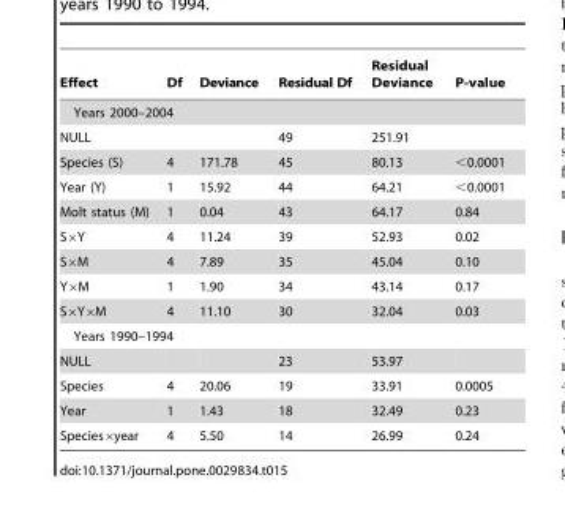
<table><thead><tr><td>Effect</td><td>Df</td><td>Deviance</td><td>Residual Df</td><td>Residual Deviance</td><td>P-value</td></tr></thead><tbody><tr><td colspan="6">Years 2000–2004</td></tr><tr><td>NULL</td><td></td><td></td><td>49</td><td>251.91</td><td></td></tr><tr><td>Species (S)</td><td>4</td><td>171.78</td><td>45</td><td>80.13</td><td>&lt;0.0001</td></tr><tr><td>Year (Y)</td><td>1</td><td>15.92</td><td>44</td><td>64.21</td><td>&lt;0.0001</td></tr><tr><td>Molt status (M)</td><td>1</td><td>0.04</td><td>43</td><td>64.17</td><td>0.84</td></tr><tr><td>S×Y</td><td>4</td><td>11.24</td><td>39</td><td>52.93</td><td>0.02</td></tr><tr><td>S×M</td><td>4</td><td>7.89</td><td>35</td><td>45.04</td><td>0.10</td></tr><tr><td>Y×M</td><td>1</td><td>1.90</td><td>34</td><td>43.14</td><td>0.17</td></tr><tr><td>S×Y×M</td><td>4</td><td>11.10</td><td>30</td><td>32.04</td><td>0.03</td></tr><tr><td colspan="6">Years 1990–1994</td></tr><tr><td>NULL</td><td></td><td></td><td>23</td><td>53.97</td><td></td></tr><tr><td>Species</td><td>4</td><td>20.06</td><td>19</td><td>33.91</td><td>0.0005</td></tr><tr><td>Year</td><td>1</td><td>1.43</td><td>18</td><td>32.49</td><td>0.23</td></tr><tr><td>Species×year</td><td>4</td><td>5.50</td><td>14</td><td>26.99</td><td>0.24</td></tr></tbody></table>